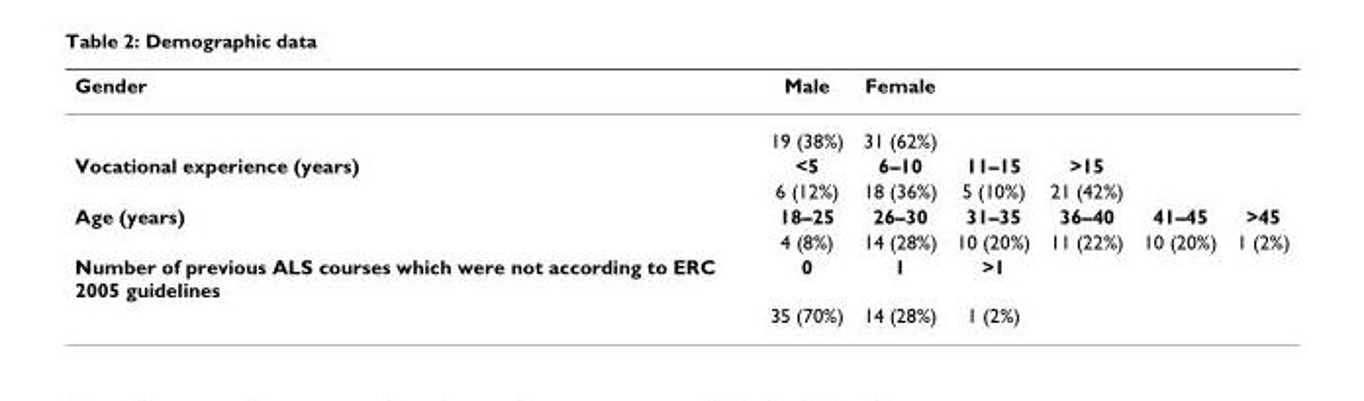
<table><thead><tr><td>Gender</td><td>Male</td><td>Female</td><td></td><td></td><td></td><td></td></tr></thead><tbody><tr><td></td><td>19 (38%)</td><td>31 (62%)</td><td></td><td></td><td></td><td></td></tr><tr><td rowspan="2">Vocational experience (years)</td><td>&lt;5</td><td>6–10</td><td>11–15</td><td>&gt;15</td><td></td><td></td></tr><tr><td>6 (12%)</td><td>18 (36%)</td><td>5 (10%)</td><td>21 (42%)</td><td></td><td></td></tr><tr><td rowspan="2">Age (years)</td><td>18–25</td><td>26–30</td><td>31–35</td><td>36–40</td><td>41–45</td><td>&gt;45</td></tr><tr><td>4 (8%)</td><td>14 (28%)</td><td>10 (20%)</td><td>11 (22%)</td><td>10 (20%)</td><td>1 (2%)</td></tr><tr><td rowspan="2">Number of previous ALS courses which were not according to ERC 2005 guidelines</td><td>0</td><td>1</td><td>&gt;1</td><td></td><td></td><td></td></tr><tr><td>35 (70%)</td><td>14 (28%)</td><td>1 (2%)</td><td></td><td></td><td></td></tr></tbody></table>